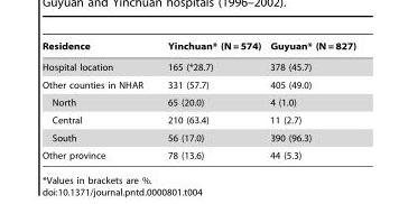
<table><thead><tr><td>Residence</td><td>Yinchuan* (N = 574)</td><td>Guyuan* (N = 827)</td></tr></thead><tbody><tr><td>Hospital location</td><td>165 (*28.7)</td><td>378 (45.7)</td></tr><tr><td>Other counties in NHAR</td><td>331 (57.7)</td><td>405 (49.0)</td></tr><tr><td>North</td><td>65 (20.0)</td><td>4 (1.0)</td></tr><tr><td>Central</td><td>210 (63.4)</td><td>11 (2.7)</td></tr><tr><td>South</td><td>56 (17.0)</td><td>390 (96.3)</td></tr><tr><td>Other province</td><td>78 (13.6)</td><td>44 (5.3)</td></tr></tbody></table>